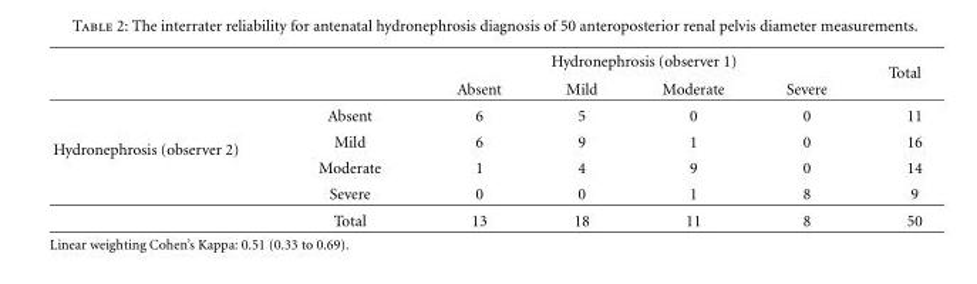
<table><thead><tr><td rowspan="2"></td><td rowspan="2"></td><td colspan="4">Hydronephrosis (observer 1)</td><td rowspan="2">Total</td></tr><tr><td>Absent</td><td>Mild</td><td>Moderate</td><td>Severe</td></tr></thead><tbody><tr><td rowspan="5">Hydronephrosis (observer 2)</td><td>Absent</td><td>6</td><td>5</td><td>0</td><td>0</td><td>11</td></tr><tr><td>Mild</td><td>6</td><td>9</td><td>1</td><td>0</td><td>16</td></tr><tr><td>Moderate</td><td>1</td><td>4</td><td>9</td><td>0</td><td>14</td></tr><tr><td>Severe</td><td>0</td><td>0</td><td>1</td><td>8</td><td>9</td></tr><tr><td>Total</td><td>13</td><td>18</td><td>11</td><td>8</td><td>50</td></tr></tbody></table>